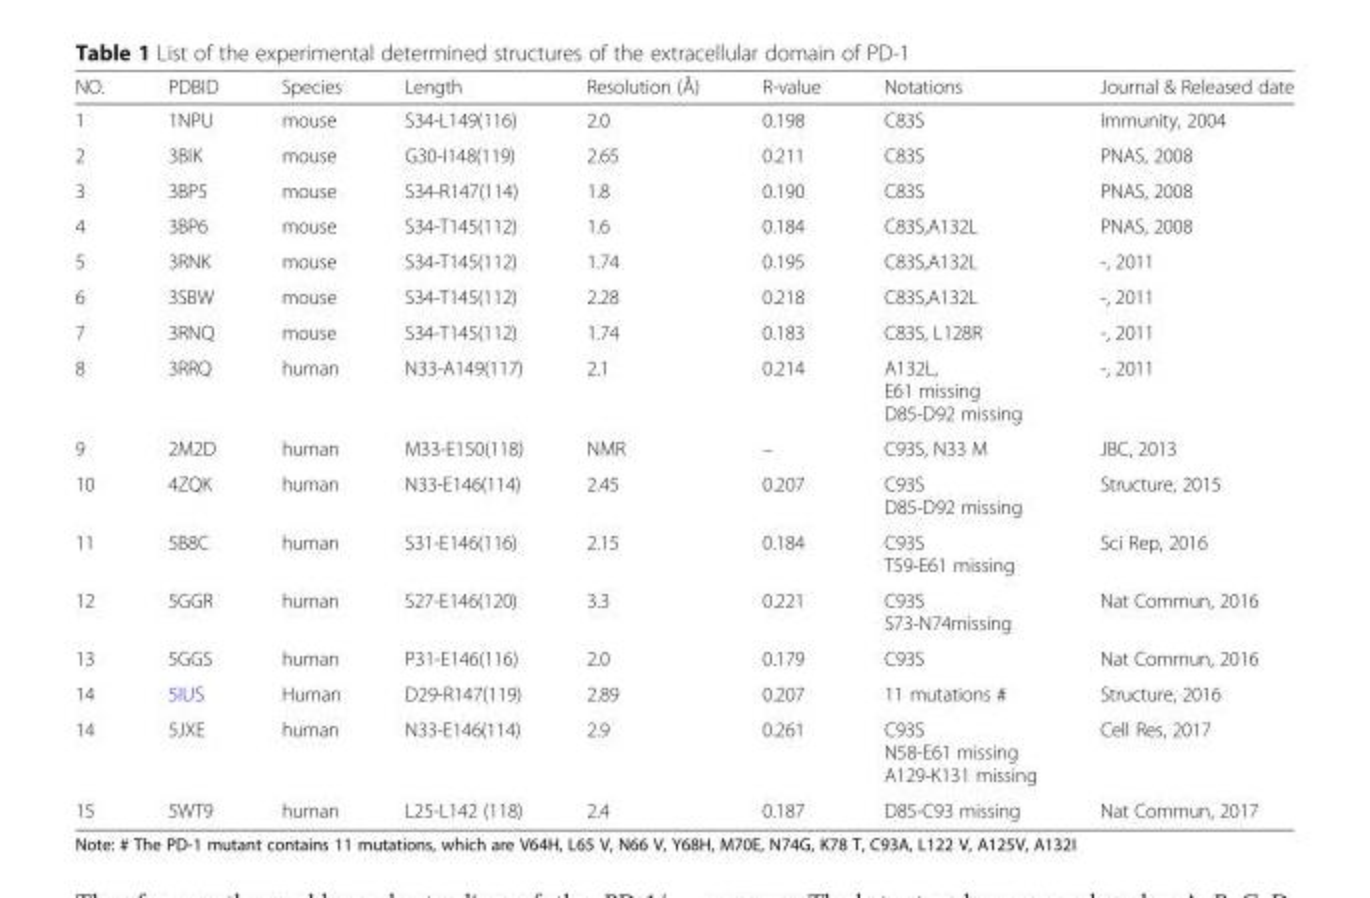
<table><thead><tr><td>NO.</td><td>PDBID</td><td>Species</td><td>Length</td><td>Resolution (Å)</td><td>R-value</td><td>Notations</td><td>Journal &amp; Released date</td></tr></thead><tbody><tr><td>1</td><td>1NPU</td><td>mouse</td><td>S34-L149(116)</td><td>2.0</td><td>0.198</td><td>C83S</td><td>Immunity, 2004</td></tr><tr><td>2</td><td>3BIK</td><td>mouse</td><td>G30-I148(119)</td><td>2.65</td><td>0.211</td><td>C83S</td><td>PNAS, 2008</td></tr><tr><td>3</td><td>3BP5</td><td>mouse</td><td>S34-R147(114)</td><td>1.8</td><td>0.190</td><td>C83S</td><td>PNAS, 2008</td></tr><tr><td>4</td><td>3BP6</td><td>mouse</td><td>S34-T145(112)</td><td>1.6</td><td>0.184</td><td>C83S,A132L</td><td>PNAS, 2008</td></tr><tr><td>5</td><td>3RNK</td><td>mouse</td><td>S34-T145(112)</td><td>1.74</td><td>0.195</td><td>C83S,A132L</td><td>-, 2011</td></tr><tr><td>6</td><td>3SBW</td><td>mouse</td><td>S34-T145(112)</td><td>2.28</td><td>0.218</td><td>C83S,A132L</td><td>-, 2011</td></tr><tr><td>7</td><td>3RNQ</td><td>mouse</td><td>S34-T145(112)</td><td>1.74</td><td>0.183</td><td>C83S, L128R</td><td>-, 2011</td></tr><tr><td>8</td><td>3RRQ</td><td>human</td><td>N33-A149(117)</td><td>2.1</td><td>0.214</td><td>A132L, E61 missing D85-D92 missing</td><td>-, 2011</td></tr><tr><td>9</td><td>2M2D</td><td>human</td><td>M33-E150(118)</td><td>NMR</td><td>–</td><td>C93S, N33 M</td><td>JBC, 2013</td></tr><tr><td>10</td><td>4ZQK</td><td>human</td><td>N33-E146(114)</td><td>2.45</td><td>0.207</td><td>C93S D85-D92 missing</td><td>Structure, 2015</td></tr><tr><td>11</td><td>5B8C</td><td>human</td><td>S31-E146(116)</td><td>2.15</td><td>0.184</td><td>C93S T59-E61 missing</td><td>Sci Rep, 2016</td></tr><tr><td>12</td><td>5GGR</td><td>human</td><td>S27-E146(120)</td><td>3.3</td><td>0.221</td><td>C93S S73-N74missing</td><td>Nat Commun, 2016</td></tr><tr><td>13</td><td>5GGS</td><td>human</td><td>P31-E146(116)</td><td>2.0</td><td>0.179</td><td>C93S</td><td>Nat Commun, 2016</td></tr><tr><td>14</td><td>5IUS</td><td>Human</td><td>D29-R147(119)</td><td>2.89</td><td>0.207</td><td>11 mutations #</td><td>Structure, 2016</td></tr><tr><td>14</td><td>5JXE</td><td>human</td><td>N33-E146(114)</td><td>2.9</td><td>0.261</td><td>C93S N58-E61 missing A129-K131 missing</td><td>Cell Res, 2017</td></tr><tr><td>15</td><td>5WT9</td><td>human</td><td>L25-L142 (118)</td><td>2.4</td><td>0.187</td><td>D85-C93 missing</td><td>Nat Commun, 2017</td></tr></tbody></table>